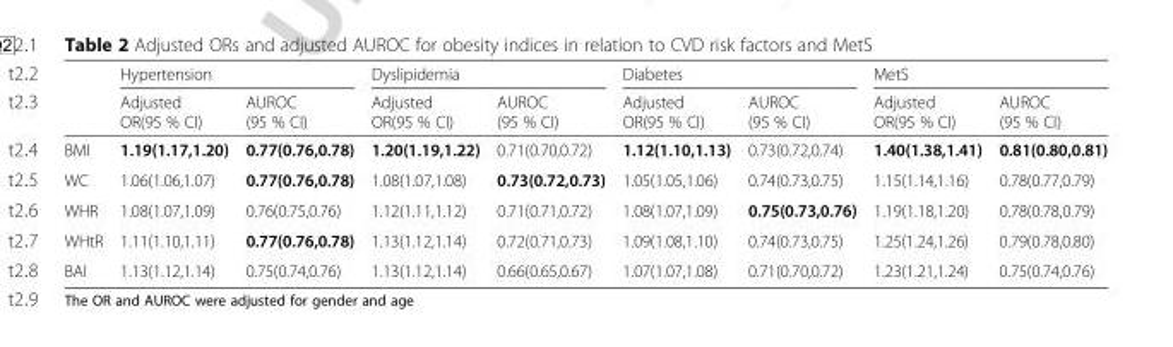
<table><thead><tr><td rowspan="2"></td><td colspan="2">Hypertension</td><td colspan="2">Dyslipidemia</td><td colspan="2">Diabetes</td><td colspan="2">MetS</td></tr><tr><td>Adjusted OR(95 % CI)</td><td>AUROC (95 % CI)</td><td>Adjusted OR(95 % CI)</td><td>AUROC (95 % CI)</td><td>Adjusted OR(95 % CI)</td><td>AUROC (95 % CI)</td><td>Adjusted OR(95 % CI)</td><td>AUROC (95 % CI)</td></tr></thead><tbody><tr><td>BMI</td><td>1.19(1.17,1.20)</td><td>0.77(0.76,0.78)</td><td>1.20(1.19,1.22)</td><td>0.71(0.70,0.72)</td><td>1.12(1.10,1.13)</td><td>0.73(0.72,0.74)</td><td>1.40(1.38,1.41)</td><td>0.81(0.80,0.81)</td></tr><tr><td>WC</td><td>1.06(1.06,1.07)</td><td>0.77(0.76,0.78)</td><td>1.08(1.07,1.08)</td><td>0.73(0.72,0.73)</td><td>1.05(1.05,1.06)</td><td>0.74(0.73,0.75)</td><td>1.15(1.14,1.16)</td><td>0.78(0.77,0.79)</td></tr><tr><td>WHR</td><td>1.08(1.07,1.09)</td><td>0.76(0.75,0.76)</td><td>1.12(1.11,1.12)</td><td>0.71(0.71,0.72)</td><td>1.08(1.07,1.09)</td><td>0.75(0.73,0.76)</td><td>1.19(1.18,1.20)</td><td>0.78(0.78,0.79)</td></tr><tr><td>WHtR</td><td>1.11(1.10,1.11)</td><td>0.77(0.76,0.78)</td><td>1.13(1.12,1.14)</td><td>0.72(0.71,0.73)</td><td>1.09(1.08,1.10)</td><td>0.74(0.73,0.75)</td><td>1.25(1.24,1.26)</td><td>0.79(0.78,0.80)</td></tr><tr><td>BAI</td><td>1.13(1.12,1.14)</td><td>0.75(0.74,0.76)</td><td>1.13(1.12,1.14)</td><td>0.66(0.65,0.67)</td><td>1.07(1.07,1.08)</td><td>0.71(0.70,0.72)</td><td>1.23(1.21,1.24)</td><td>0.75(0.74,0.76)</td></tr></tbody></table>